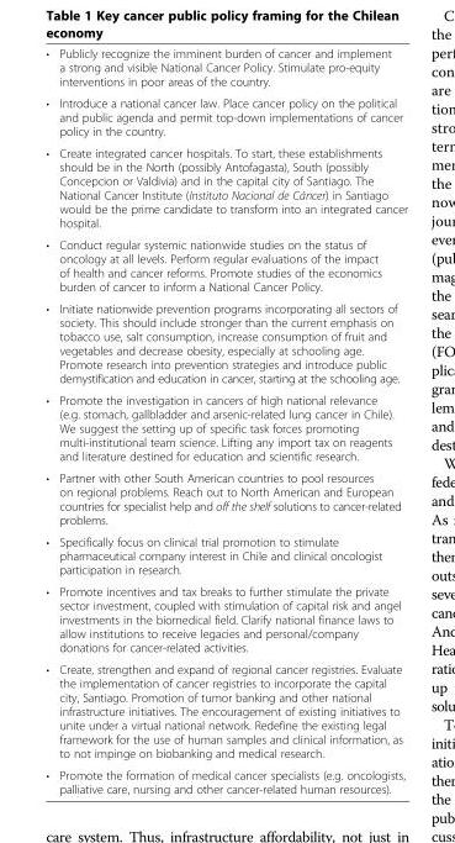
<table><tbody><tr><td>•</td><td>Publicly recognize the imminent burden of cancer and implement a strong and visible National Cancer Policy. Stimulate pro-equity interventions in poor areas of the country.</td></tr><tr><td>•</td><td>Introduce a national cancer law. Place cancer policy on the political and public agenda and permit top-down implementations of cancer policy in the country.</td></tr><tr><td>•</td><td>Create integrated cancer hospitals. To start, these establishments should be in the North (possibly Antofagasta), South (possibly Concepcion or Valdivia) and in the capital city of Santiago. The National Cancer Institute (Instituto Nacional de Cáncer) in Santiago would be the prime candidate to transform into an integrated cancer hospital.</td></tr><tr><td>•</td><td>Conduct regular systemic nationwide studies on the status of oncology at all levels. Perform regular evaluations of the impact of health and cancer reforms. Promote studies of the economics burden of cancer to inform a National Cancer Policy.</td></tr><tr><td>•</td><td>Initiate nationwide prevention programs incorporating all sectors of society. This should include stronger than the current emphasis on tobacco use, salt consumption, increase consumption of fruit and vegetables and decrease obesity, especially at schooling age. Promote research into prevention strategies and introduce public demystification and education in cancer, starting at the schooling age.</td></tr><tr><td>•</td><td>Promote the investigation in cancers of high national relevance (e.g. stomach, gallbladder and arsenic-related lung cancer in Chile). We suggest the setting up of specific task forces promoting multi-institutional team science. Lifting any import tax on reagents and literature destined for education and scientific research.</td></tr><tr><td>•</td><td>Partner with other South American countries to pool resources on regional problems. Reach out to North American and European countries for specialist help and off the shelf solutions to cancer-related problems.</td></tr><tr><td>•</td><td>Specifically focus on clinical trial promotion to stimulate pharmaceutical company interest in Chile and clinical oncologist participation in research.</td></tr><tr><td>•</td><td>Promote incentives and tax breaks to further stimulate the private sector investment, coupled with stimulation of capital risk and angel investments in the biomedical field. Clarify national finance laws to allow institutions to receive legacies and personal/company donations for cancer-related activities.</td></tr><tr><td>•</td><td>Create, strengthen and expand of regional cancer registries. Evaluate the implementation of cancer registries to incorporate the capital city, Santiago. Promotion of tumor banking and other national infrastructure initiatives. The encouragement of existing initiatives to unite under a virtual national network. Redefine the existing legal framework for the use of human samples and clinical information, as to not impinge on biobanking and medical research.</td></tr><tr><td>•</td><td>Promote the formation of medical cancer specialists (e.g. oncologists, palliative care, nursing and other cancer-related human resources).</td></tr></tbody></table>